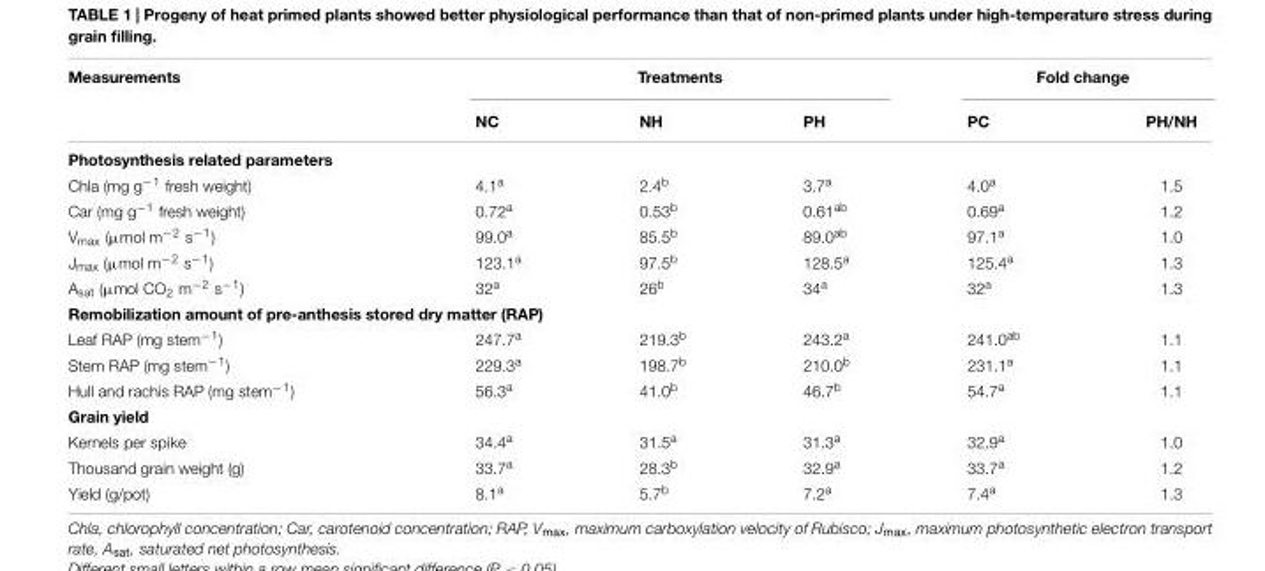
<table><thead><tr><td rowspan="2">Measurements</td><td colspan="3">Treatments</td><td colspan="2">Fold change</td></tr><tr><td>NC</td><td>NH</td><td>PH</td><td>PC</td><td>PH/NH</td></tr></thead><tbody><tr><td colspan="6">Photosynthesis related parameters</td></tr><tr><td>Chla (mg g<sup>−1</sup> fresh weight)</td><td>4.1<sup>a</sup></td><td>2.4<sup>b</sup></td><td>3.7<sup>a</sup></td><td>4.0<sup>a</sup></td><td>1.5</td></tr><tr><td>Car (mg g<sup>−1</sup> fresh weight)</td><td>0.72<sup>a</sup></td><td>0.53<sup>b</sup></td><td>0.61<sup>ab</sup></td><td>0.69<sup>a</sup></td><td>1.2</td></tr><tr><td>V<sub>max</sub> (µmol m<sup>−2</sup> s<sup>−1</sup>)</td><td>99.0<sup>a</sup></td><td>85.5<sup>b</sup></td><td>89.0<sup>ab</sup></td><td>97.1<sup>a</sup></td><td>1.0</td></tr><tr><td>J<sub>max</sub> (µmol m<sup>−2</sup> s<sup>−1</sup>)</td><td>123.1<sup>a</sup></td><td>97.5<sup>b</sup></td><td>128.5<sup>a</sup></td><td>125.4<sup>a</sup></td><td>1.3</td></tr><tr><td>A<sub>sat</sub> (µmol CO<sub>2</sub> m<sup>−2</sup> s<sup>−1</sup>)</td><td>32<sup>a</sup></td><td>26<sup>b</sup></td><td>34<sup>a</sup></td><td>32<sup>a</sup></td><td>1.3</td></tr><tr><td colspan="6">Remobilization amount of pre-anthesis stored dry matter (RAP)</td></tr><tr><td>Leaf RAP (mg stem<sup>−1</sup>)</td><td>247.7<sup>a</sup></td><td>219.3<sup>b</sup></td><td>243.2<sup>a</sup></td><td>241.0<sup>ab</sup></td><td>1.1</td></tr><tr><td>Stem RAP (mg stem<sup>−1</sup>)</td><td>229.3<sup>a</sup></td><td>198.7<sup>b</sup></td><td>210.0<sup>b</sup></td><td>231.1<sup>a</sup></td><td>1.1</td></tr><tr><td>Hull and rachis RAP (mg stem<sup>−1</sup>)</td><td>56.3<sup>a</sup></td><td>41.0<sup>b</sup></td><td>46.7<sup>b</sup></td><td>54.7<sup>a</sup></td><td>1.1</td></tr><tr><td colspan="6">Grain yield</td></tr><tr><td>Kernels per spike</td><td>34.4<sup>a</sup></td><td>31.5<sup>a</sup></td><td>31.3<sup>a</sup></td><td>32.9<sup>a</sup></td><td>1.0</td></tr><tr><td>Thousand grain weight (g)</td><td>33.7<sup>a</sup></td><td>28.3<sup>b</sup></td><td>32.9<sup>a</sup></td><td>33.7<sup>a</sup></td><td>1.2</td></tr><tr><td>Yield (g/pot)</td><td>8.1<sup>a</sup></td><td>5.7<sup>b</sup></td><td>7.2<sup>a</sup></td><td>7.4<sup>a</sup></td><td>1.3</td></tr></tbody></table>